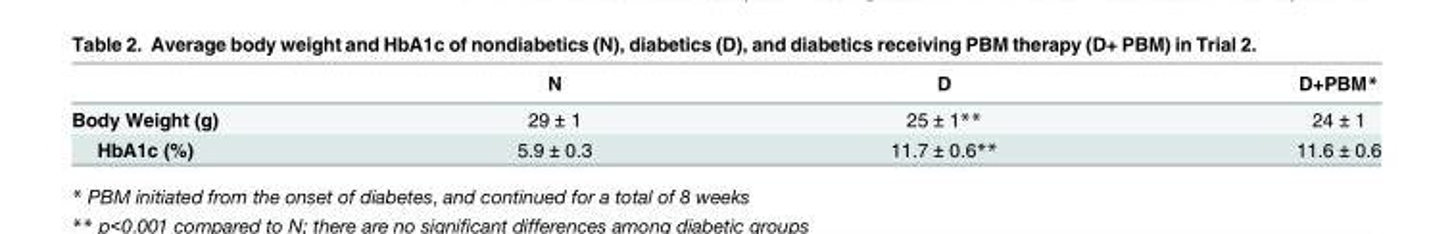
<table><thead><tr><td></td><td>N</td><td>D</td><td>D+PBM*</td></tr></thead><tbody><tr><td>Body Weight (g)</td><td>29 ± 1</td><td>25 ± 1**</td><td>24 ± 1</td></tr><tr><td>HbA1c (%)</td><td>5.9 ± 0.3</td><td>11.7 ± 0.6**</td><td>11.6 ± 0.6</td></tr></tbody></table>